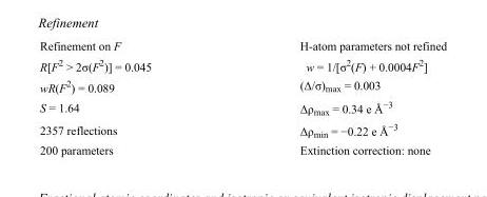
<table><tbody><tr><td>Refinement on F</td><td>H-atom parameters not refined</td></tr><tr><td>R[F<sup>2</sup> &gt; 2σ(F<sup>2</sup>)] = 0.045</td><td>w = 1/[σ<sup>2</sup>(F) + 0.0004F<sup>2</sup>]</td></tr><tr><td>wR(F<sup>2</sup>) = 0.089</td><td>(Δ/σ)<sub>max</sub> = 0.003</td></tr><tr><td>S = 1.64</td><td>Δρ<sub>max</sub> = 0.34 e Å<sup>−3</sup></td></tr><tr><td>2357 reflections</td><td>Δρ<sub>min</sub> = −0.22 e Å<sup>−3</sup></td></tr><tr><td>200 parameters</td><td>Extinction correction: none</td></tr></tbody></table>